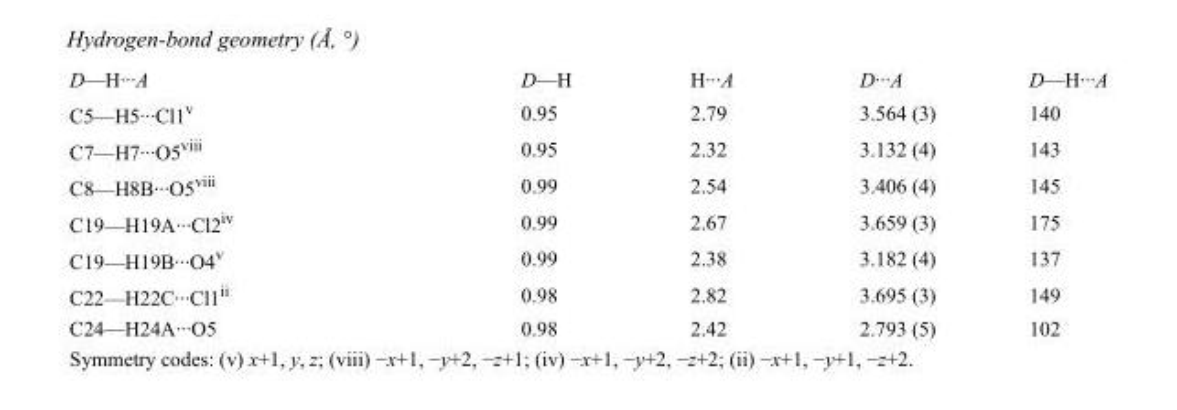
<table><tbody><tr><td>D—H···A</td><td>D—H</td><td>H···A</td><td>D···A</td><td>D—H···A</td></tr><tr><td>C5—H5···Cl1<sup>v</sup></td><td>0.95</td><td>2.79</td><td>3.564 (3)</td><td>140</td></tr><tr><td>C7—H7···O5<sup>viii</sup></td><td>0.95</td><td>2.32</td><td>3.132 (4)</td><td>143</td></tr><tr><td>C8—H8B···O5<sup>viii</sup></td><td>0.99</td><td>2.54</td><td>3.406 (4)</td><td>145</td></tr><tr><td>C19—H19A···Cl2<sup>iv</sup></td><td>0.99</td><td>2.67</td><td>3.659 (3)</td><td>175</td></tr><tr><td>C19—H19B···O4<sup>v</sup></td><td>0.99</td><td>2.38</td><td>3.182 (4)</td><td>137</td></tr><tr><td>C22—H22C···Cl1<sup>ii</sup></td><td>0.98</td><td>2.82</td><td>3.695 (3)</td><td>149</td></tr><tr><td>C24—H24A···O5</td><td>0.98</td><td>2.42</td><td>2.793 (5)</td><td>102</td></tr></tbody></table>